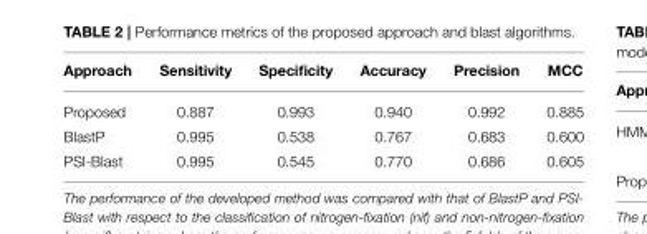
<table><thead><tr><td>Approach</td><td>Sensitivity</td><td>Specificity</td><td>Accuracy</td><td>Precision</td><td>MCC</td></tr></thead><tbody><tr><td>Proposed</td><td>0.887</td><td>0.993</td><td>0.940</td><td>0.992</td><td>0.885</td></tr><tr><td>BlastP</td><td>0.995</td><td>0.538</td><td>0.767</td><td>0.683</td><td>0.600</td></tr><tr><td>PSI-Blast</td><td>0.995</td><td>0.545</td><td>0.770</td><td>0.686</td><td>0.605</td></tr></tbody></table>